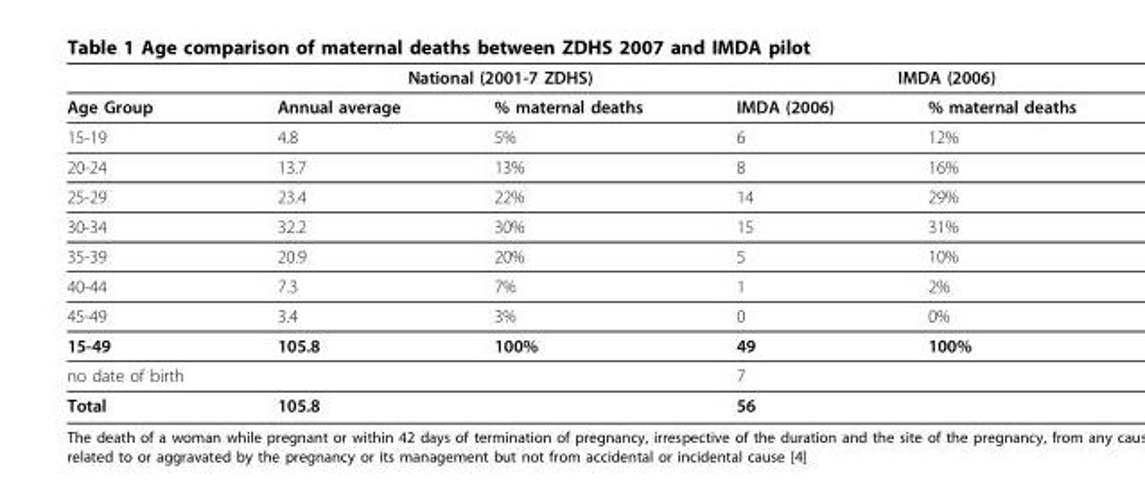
<table><thead><tr><td rowspan="2">Age Group</td><td colspan="2">National (2001-7 ZDHS)</td><td colspan="2">IMDA (2006)</td></tr><tr><td>Annual average</td><td>% maternal deaths</td><td>IMDA (2006)</td><td>% maternal deaths</td></tr></thead><tbody><tr><td>15-19</td><td>4.8</td><td>5%</td><td>6</td><td>12%</td></tr><tr><td>20-24</td><td>13.7</td><td>13%</td><td>8</td><td>16%</td></tr><tr><td>25-29</td><td>23.4</td><td>22%</td><td>14</td><td>29%</td></tr><tr><td>30-34</td><td>32.2</td><td>30%</td><td>15</td><td>31%</td></tr><tr><td>35-39</td><td>20.9</td><td>20%</td><td>5</td><td>10%</td></tr><tr><td>40-44</td><td>7.3</td><td>7%</td><td>1</td><td>2%</td></tr><tr><td>45-49</td><td>3.4</td><td>3%</td><td>0</td><td>0%</td></tr><tr><td>15-49</td><td>105.8</td><td>100%</td><td>49</td><td>100%</td></tr><tr><td>no date of birth</td><td></td><td></td><td>7</td><td></td></tr><tr><td>Total</td><td>105.8</td><td></td><td>56</td><td></td></tr></tbody></table>